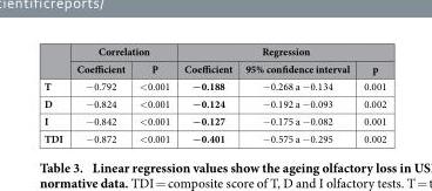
<table><thead><tr><td rowspan="2"></td><td colspan="2">Correlation</td><td colspan="3">Regression</td></tr><tr><td>Coefficient</td><td>P</td><td>Coefficient</td><td>95% confidence interval</td><td>p</td></tr></thead><tbody><tr><td>T</td><td>− 0.792</td><td>&lt; 0.001</td><td>−0.188</td><td>− 0.268 a − 0.134</td><td>0.001</td></tr><tr><td>D</td><td>− 0.824</td><td>&lt; 0.001</td><td>−0.124</td><td>− 0.192 a − 0.093</td><td>0.002</td></tr><tr><td>I</td><td>− 0.842</td><td>&lt; 0.001</td><td>−0.127</td><td>− 0.175 a − 0.082</td><td>0.001</td></tr><tr><td>TDI</td><td>− 0.872</td><td>&lt; 0.001</td><td>−0.401</td><td>− 0.575 a − 0.295</td><td>0.002</td></tr></tbody></table>